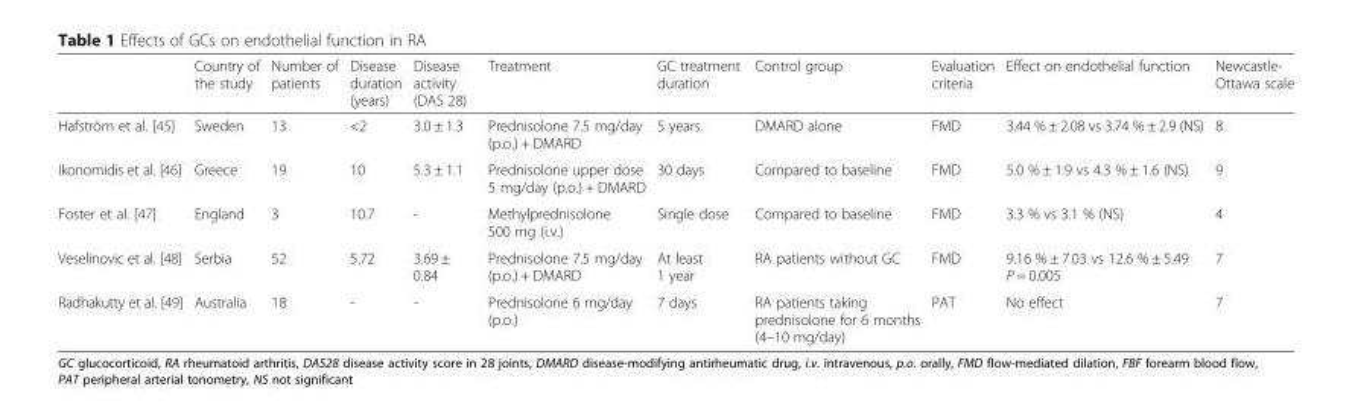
<table><thead><tr><td></td><td>Country of the study</td><td>Number of patients</td><td>Disease duration (years)</td><td>Disease activity (DAS 28)</td><td>Treatment</td><td>GC treatment duration</td><td>Control group</td><td>Evaluation criteria</td><td>Effect on endothelial function</td><td>Newcastle- Ottawa scale</td></tr></thead><tbody><tr><td>Hafström et al. [45]</td><td>Sweden</td><td>13</td><td>&lt;2</td><td>3.0 ± 1.3</td><td>Prednisolone 7.5 mg/day (p.o.) + DMARD</td><td>5 years</td><td>DMARD alone</td><td>FMD</td><td>3.44 % ± 2.08 vs 3.74 % ± 2.9 (NS)</td><td>8</td></tr><tr><td>Ikonomidis et al. [46]</td><td>Greece</td><td>19</td><td>10</td><td>5.3 ± 1.1</td><td>Prednisolone upper dose 5 mg/day (p.o.) + DMARD</td><td>30 days</td><td>Compared to baseline</td><td>FMD</td><td>5.0 % ± 1.9 vs 4.3 % ± 1.6 (NS)</td><td>9</td></tr><tr><td>Foster et al. [47]</td><td>England</td><td>3</td><td>10.7</td><td>-</td><td>Methylprednisolone 500 mg (i.v.)</td><td>Single dose</td><td>Compared to baseline</td><td>FMD</td><td>3.3 % vs 3.1 % (NS)</td><td>4</td></tr><tr><td>Veselinovic et al. [48]</td><td>Serbia</td><td>52</td><td>5.72</td><td>3.69 ± 0.84</td><td>Prednisolone 7.5 mg/day (p.o.) + DMARD</td><td>At least 1 year</td><td>RA patients without GC</td><td>FMD</td><td>9.16 % ± 7.03 vs 12.6 % ± 5.49 P = 0.005</td><td>7</td></tr><tr><td>Radhakutty et al. [49]</td><td>Australia</td><td>18</td><td>-</td><td>-</td><td>Prednisolone 6 mg/day (p.o.)</td><td>7 days</td><td>RA patients taking prednisolone for 6 months (4–10 mg/day)</td><td>PAT</td><td>No effect</td><td>7</td></tr></tbody></table>